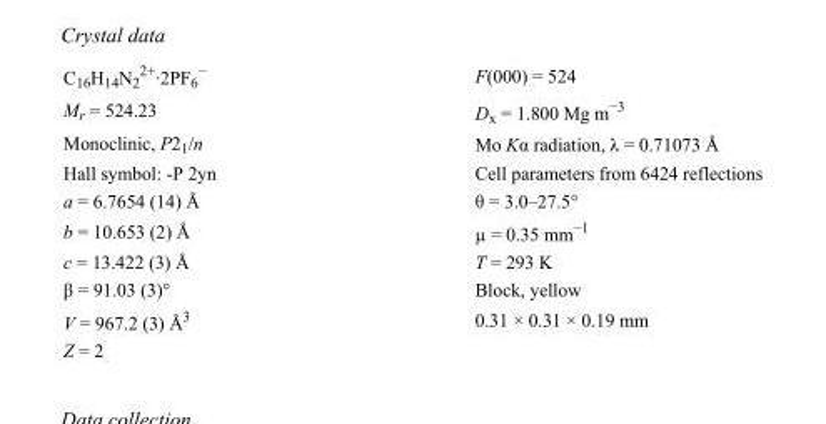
<table><tbody><tr><td>C<sub>16</sub>H<sub>14</sub>N<sub>2</sub> <sup>2+</sup>·2PF<sub>6</sub> <sup>−</sup></td><td>F(000) = 524</td></tr><tr><td>M<sub>r</sub> = 524.23</td><td>D<sub>x</sub> = 1.800 Mg m<sup>−3</sup></td></tr><tr><td>Monoclinic, P2<sub>1</sub>/n</td><td>Mo Kα radiation, λ = 0.71073 Å</td></tr><tr><td>Hall symbol: -P 2yn</td><td>Cell parameters from 6424 reflections</td></tr><tr><td>a = 6.7654 (14) Å</td><td>θ = 3.0–27.5°</td></tr><tr><td>b = 10.653 (2) Å</td><td>µ = 0.35 mm<sup>−1</sup></td></tr><tr><td>c = 13.422 (3) Å</td><td>T = 293 K</td></tr><tr><td>β = 91.03 (3)°</td><td>Block, yellow</td></tr><tr><td>V = 967.2 (3) Å<sup>3</sup></td><td>0.31 × 0.31 × 0.19 mm</td></tr><tr><td>Z = 2</td><td></td></tr></tbody></table>